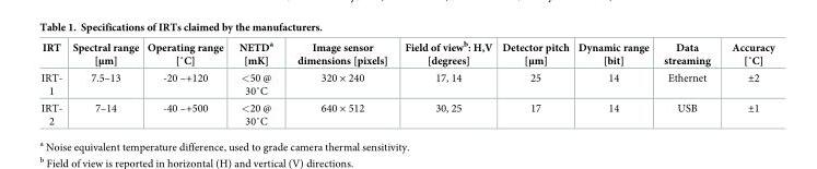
<table><thead><tr><td>IRT</td><td>Spectral range [μm]</td><td>Operating range [˚C]</td><td>NETD<sup>a</sup> [mK]</td><td>Image sensor dimensions [pixels]</td><td>Field of view<sup>b</sup>: H,V [degrees]</td><td>Detector pitch [μm]</td><td>Dynamic range [bit]</td><td>Data streaming</td><td>Accuracy [˚C]</td></tr></thead><tbody><tr><td>IRT- 1</td><td>7.5–13</td><td>-20 –+120</td><td>&lt;50 @ 30˚C</td><td>320 × 240</td><td>17, 14</td><td>25</td><td>14</td><td>Ethernet</td><td>±2</td></tr><tr><td>IRT- 2</td><td>7–14</td><td>-40 –+500</td><td>&lt;20 @ 30˚C</td><td>640 × 512</td><td>30, 25</td><td>17</td><td>14</td><td>USB</td><td>±1</td></tr></tbody></table>